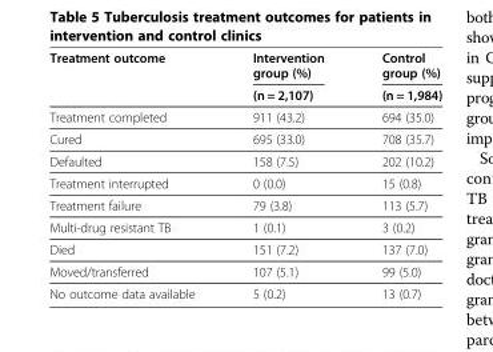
<table><thead><tr><td rowspan="2">Treatment outcome</td><td rowspan="2">Intervention group (%) (n = 2,107)</td><td rowspan="2">Control group (%) (n = 1,984)</td></tr><tr></tr></thead><tbody><tr><td>Treatment completed</td><td>911 (43.2)</td><td>694 (35.0)</td></tr><tr><td>Cured</td><td>695 (33.0)</td><td>708 (35.7)</td></tr><tr><td>Defaulted</td><td>158 (7.5)</td><td>202 (10.2)</td></tr><tr><td>Treatment interrupted</td><td>0 (0.0)</td><td>15 (0.8)</td></tr><tr><td>Treatment failure</td><td>79 (3.8)</td><td>113 (5.7)</td></tr><tr><td>Multi-drug resistant TB</td><td>1 (0.1)</td><td>3 (0.2)</td></tr><tr><td>Died</td><td>151 (7.2)</td><td>137 (7.0)</td></tr><tr><td>Moved/transferred</td><td>107 (5.1)</td><td>99 (5.0)</td></tr><tr><td>No outcome data available</td><td>5 (0.2)</td><td>13 (0.7)</td></tr></tbody></table>